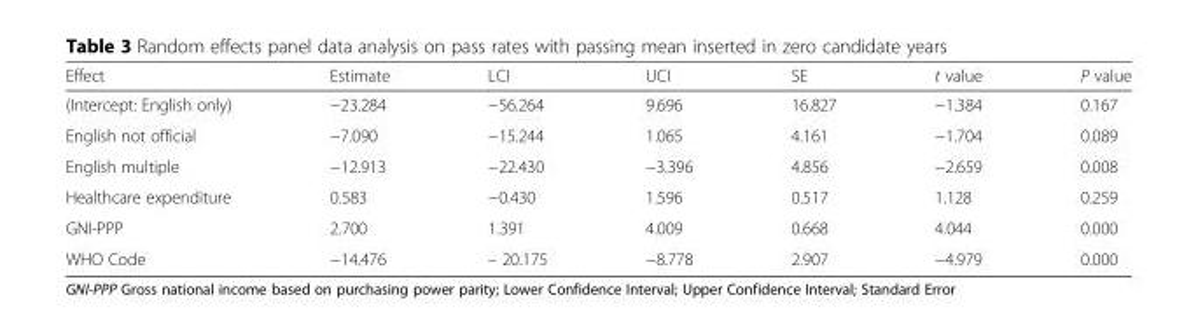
<table><thead><tr><td>Effect</td><td>Estimate</td><td>LCI</td><td>UCI</td><td>SE</td><td>t value</td><td>P value</td></tr></thead><tbody><tr><td>(Intercept: English only)</td><td>−23.284</td><td>−56.264</td><td>9.696</td><td>16.827</td><td>−1.384</td><td>0.167</td></tr><tr><td>English not official</td><td>−7.090</td><td>−15.244</td><td>1.065</td><td>4.161</td><td>−1.704</td><td>0.089</td></tr><tr><td>English multiple</td><td>−12.913</td><td>−22.430</td><td>−3.396</td><td>4.856</td><td>−2.659</td><td>0.008</td></tr><tr><td>Healthcare expenditure</td><td>0.583</td><td>−0.430</td><td>1.596</td><td>0.517</td><td>1.128</td><td>0.259</td></tr><tr><td>GNI-PPP</td><td>2.700</td><td>1.391</td><td>4.009</td><td>0.668</td><td>4.044</td><td>0.000</td></tr><tr><td>WHO Code</td><td>−14.476</td><td>– 20.175</td><td>−8.778</td><td>2.907</td><td>−4.979</td><td>0.000</td></tr></tbody></table>